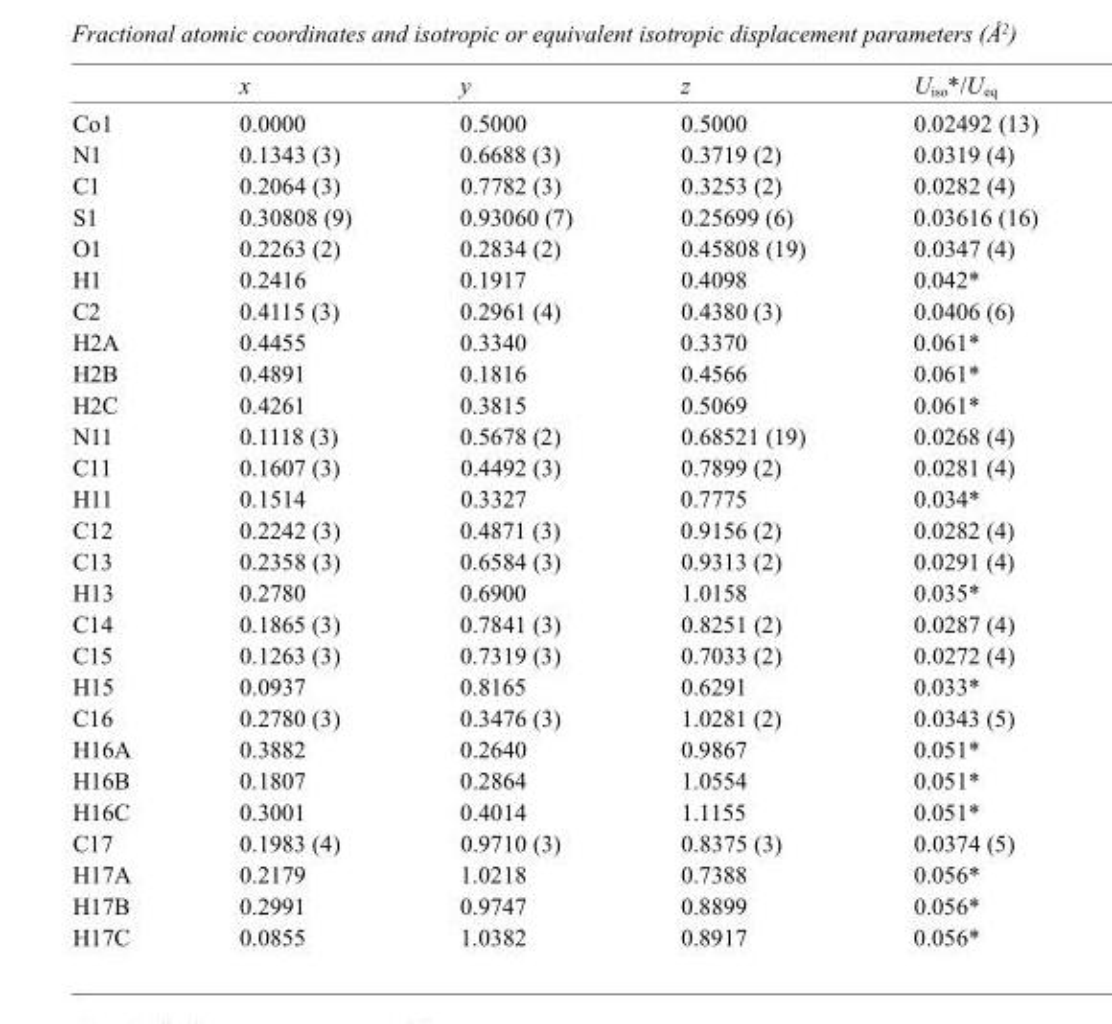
<table><thead><tr><td></td><td>x</td><td>y</td><td>z</td><td>U<sub>iso</sub>*/U<sub>eq</sub></td></tr></thead><tbody><tr><td>Co1</td><td>0.0000</td><td>0.5000</td><td>0.5000</td><td>0.02492 (13)</td></tr><tr><td>N1</td><td>0.1343 (3)</td><td>0.6688 (3)</td><td>0.3719 (2)</td><td>0.0319 (4)</td></tr><tr><td>C1</td><td>0.2064 (3)</td><td>0.7782 (3)</td><td>0.3253 (2)</td><td>0.0282 (4)</td></tr><tr><td>S1</td><td>0.30808 (9)</td><td>0.93060 (7)</td><td>0.25699 (6)</td><td>0.03616 (16)</td></tr><tr><td>O1</td><td>0.2263 (2)</td><td>0.2834 (2)</td><td>0.45808 (19)</td><td>0.0347 (4)</td></tr><tr><td>H1</td><td>0.2416</td><td>0.1917</td><td>0.4098</td><td>0.042*</td></tr><tr><td>C2</td><td>0.4115 (3)</td><td>0.2961 (4)</td><td>0.4380 (3)</td><td>0.0406 (6)</td></tr><tr><td>H2A</td><td>0.4455</td><td>0.3340</td><td>0.3370</td><td>0.061*</td></tr><tr><td>H2B</td><td>0.4891</td><td>0.1816</td><td>0.4566</td><td>0.061*</td></tr><tr><td>H2C</td><td>0.4261</td><td>0.3815</td><td>0.5069</td><td>0.061*</td></tr><tr><td>N11</td><td>0.1118 (3)</td><td>0.5678 (2)</td><td>0.68521 (19)</td><td>0.0268 (4)</td></tr><tr><td>C11</td><td>0.1607 (3)</td><td>0.4492 (3)</td><td>0.7899 (2)</td><td>0.0281 (4)</td></tr><tr><td>H11</td><td>0.1514</td><td>0.3327</td><td>0.7775</td><td>0.034*</td></tr><tr><td>C12</td><td>0.2242 (3)</td><td>0.4871 (3)</td><td>0.9156 (2)</td><td>0.0282 (4)</td></tr><tr><td>C13</td><td>0.2358 (3)</td><td>0.6584 (3)</td><td>0.9313 (2)</td><td>0.0291 (4)</td></tr><tr><td>H13</td><td>0.2780</td><td>0.6900</td><td>1.0158</td><td>0.035*</td></tr><tr><td>C14</td><td>0.1865 (3)</td><td>0.7841 (3)</td><td>0.8251 (2)</td><td>0.0287 (4)</td></tr><tr><td>C15</td><td>0.1263 (3)</td><td>0.7319 (3)</td><td>0.7033 (2)</td><td>0.0272 (4)</td></tr><tr><td>H15</td><td>0.0937</td><td>0.8165</td><td>0.6291</td><td>0.033*</td></tr><tr><td>C16</td><td>0.2780 (3)</td><td>0.3476 (3)</td><td>1.0281 (2)</td><td>0.0343 (5)</td></tr><tr><td>H16A</td><td>0.3882</td><td>0.2640</td><td>0.9867</td><td>0.051*</td></tr><tr><td>H16B</td><td>0.1807</td><td>0.2864</td><td>1.0554</td><td>0.051*</td></tr><tr><td>H16C</td><td>0.3001</td><td>0.4014</td><td>1.1155</td><td>0.051*</td></tr><tr><td>C17</td><td>0.1983 (4)</td><td>0.9710 (3)</td><td>0.8375 (3)</td><td>0.0374 (5)</td></tr><tr><td>H17A</td><td>0.2179</td><td>1.0218</td><td>0.7388</td><td>0.056*</td></tr><tr><td>H17B</td><td>0.2991</td><td>0.9747</td><td>0.8899</td><td>0.056*</td></tr><tr><td>H17C</td><td>0.0855</td><td>1.0382</td><td>0.8917</td><td>0.056*</td></tr></tbody></table>